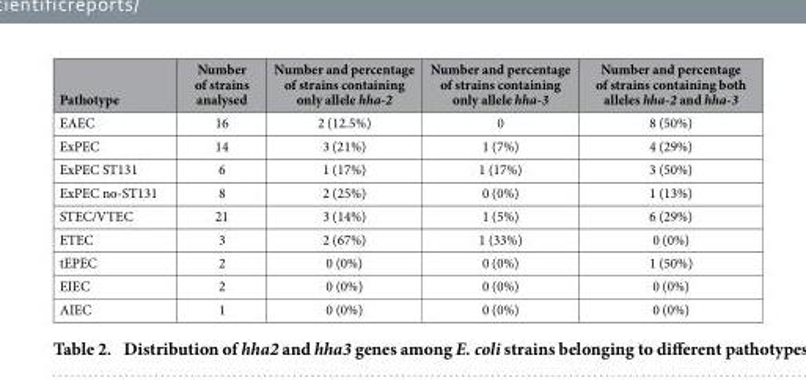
<table><thead><tr><td>Pathotype</td><td>Number of strains analysed</td><td>Number and percentage of strains containing only allele hha-2</td><td>Number and percentage of strains containing only allele hha-3</td><td>Number and percentage of strains containing both alleles hha-2 and hha-3</td></tr></thead><tbody><tr><td>EAEC</td><td>16</td><td>2 (12.5%)</td><td>0</td><td>8 (50%)</td></tr><tr><td>ExPEC</td><td>14</td><td>3 (21%)</td><td>1 (7%)</td><td>4 (29%)</td></tr><tr><td>ExPEC ST131</td><td>6</td><td>1 (17%)</td><td>1 (17%)</td><td>3 (50%)</td></tr><tr><td>ExPEC no-ST131</td><td>8</td><td>2 (25%)</td><td>0 (0%)</td><td>1 (13%)</td></tr><tr><td>STEC/VTEC</td><td>21</td><td>3 (14%)</td><td>1 (5%)</td><td>6 (29%)</td></tr><tr><td>ETEC</td><td>3</td><td>2 (67%)</td><td>1 (33%)</td><td>0 (0%)</td></tr><tr><td>tEPEC</td><td>2</td><td>0 (0%)</td><td>0 (0%)</td><td>1 (50%)</td></tr><tr><td>EIEC</td><td>2</td><td>0 (0%)</td><td>0 (0%)</td><td>0 (0%)</td></tr><tr><td>AIEC</td><td>1</td><td>0 (0%)</td><td>0 (0%)</td><td>0 (0%)</td></tr></tbody></table>